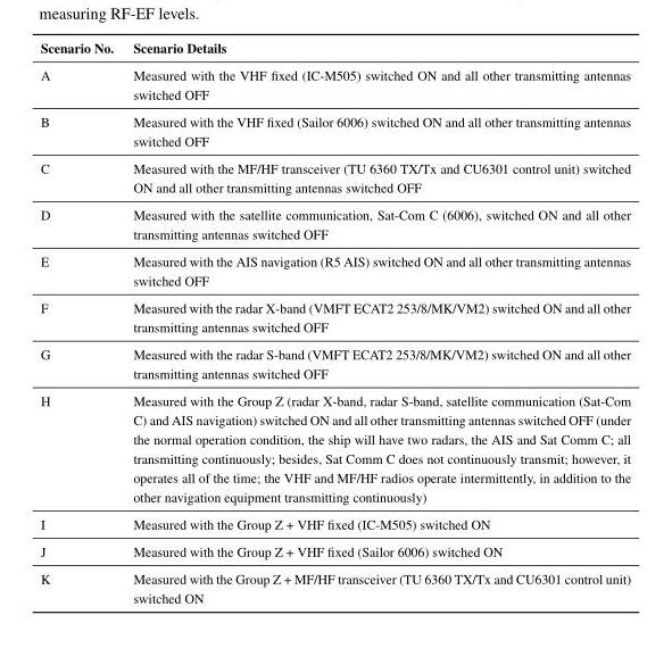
<table><thead><tr><td>Scenario No.</td><td>Scenario Details</td></tr></thead><tbody><tr><td>A</td><td>Measured with the VHF fixed (IC-M505) switched ON and all other transmitting antennas switched OFF</td></tr><tr><td>B</td><td>Measured with the VHF fixed (Sailor 6006) switched ON and all other transmitting antennas switched OFF</td></tr><tr><td>C</td><td>Measured with the MF/HF transceiver (TU 6360 TX/Tx and CU6301 control unit) switched ON and all other transmitting antennas switched OFF</td></tr><tr><td>D</td><td>Measured with the satellite communication, Sat-Com C (6006), switched ON and all other transmitting antennas switched OFF</td></tr><tr><td>E</td><td>Measured with the AIS navigation (R5 AIS) switched ON and all other transmitting antennas switched OFF</td></tr><tr><td>F</td><td>Measured with the radar X-band (VMFT ECAT2 253/8/MK/VM2) switched ON and all other transmitting antennas switched OFF</td></tr><tr><td>G</td><td>Measured with the radar S-band (VMFT ECAT2 253/8/MK/VM2) switched ON and all other transmitting antennas switched OFF</td></tr><tr><td>H</td><td>Measured with the Group Z (radar X-band, radar S-band, satellite communication (Sat-Com C) and AIS navigation) switched ON and all other transmitting antennas switched OFF (under the normal operation condition, the ship will have two radars, the AIS and Sat Comm C; all transmitting continuously; besides, Sat Comm C does not continuously transmit; however, it operates all of the time; the VHF and MF/HF radios operate intermittently, in addition to the other navigation equipment transmitting continuously)</td></tr><tr><td>I</td><td>Measured with the Group Z + VHF fixed (IC-M505) switched ON</td></tr><tr><td>J</td><td>Measured with the Group Z + VHF fixed (Sailor 6006) switched ON</td></tr><tr><td>K</td><td>Measured with the Group Z + MF/HF transceiver (TU 6360 TX/Tx and CU6301 control unit) switched ON</td></tr></tbody></table>